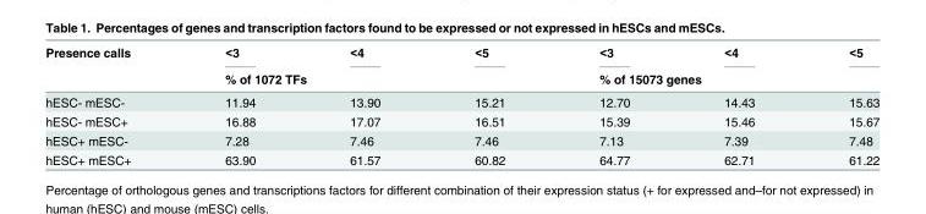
<table><thead><tr><td rowspan="2">Presence calls</td><td>&lt;3</td><td>&lt;4</td><td>&lt;5</td><td>&lt;3</td><td>&lt;4</td><td>&lt;5</td></tr><tr><td colspan="3">% of 1072 TFs</td><td colspan="3">% of 15073 genes</td></tr></thead><tbody><tr><td>hESC- mESC-</td><td>11.94</td><td>13.90</td><td>15.21</td><td>12.70</td><td>14.43</td><td>15.63</td></tr><tr><td>hESC- mESC+</td><td>16.88</td><td>17.07</td><td>16.51</td><td>15.39</td><td>15.46</td><td>15.67</td></tr><tr><td>hESC+ mESC-</td><td>7.28</td><td>7.46</td><td>7.46</td><td>7.13</td><td>7.39</td><td>7.48</td></tr><tr><td>hESC+ mESC+</td><td>63.90</td><td>61.57</td><td>60.82</td><td>64.77</td><td>62.71</td><td>61.22</td></tr></tbody></table>